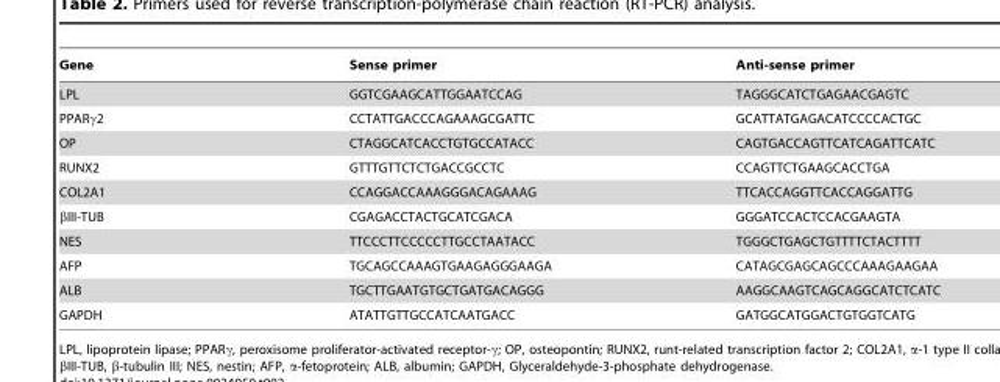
<table><thead><tr><td>Gene</td><td>Sense primer</td><td>Anti-sense primer</td></tr></thead><tbody><tr><td>LPL</td><td>GGTCGAAGCATTGGAATCCAG</td><td>TAGGGCATCTGAGAACGAGTC</td></tr><tr><td>PPARγ2</td><td>CCTATTGACCCAGAAAGCGATTC</td><td>GCATTATGAGACATCCCCACTGC</td></tr><tr><td>OP</td><td>CTAGGCATCACCTGTGCCATACC</td><td>CAGTGACCAGTTCATCAGATTCATC</td></tr><tr><td>RUNX2</td><td>GTTTGTTCTCTGACCGCCTC</td><td>CCAGTTCTGAAGCACCTGA</td></tr><tr><td>COL2A1</td><td>CCAGGACCAAAGGGACAGAAAG</td><td>TTCACCAGGTTCACCAGGATTG</td></tr><tr><td>βIII-TUB</td><td>CGAGACCTACTGCATCGACA</td><td>GGGATCCACTCCACGAAGTA</td></tr><tr><td>NES</td><td>TTCCCTTCCCCCTTGCCTAATACC</td><td>TGGGCTGAGCTGTTTTCTACTTTT</td></tr><tr><td>AFP</td><td>TGCAGCCAAAGTGAAGAGGGAAGA</td><td>CATAGCGAGCAGCCCAAAGAAGAA</td></tr><tr><td>ALB</td><td>TGCTTGAATGTGCTGATGACAGGG</td><td>AAGGCAAGTCAGCAGGCATCTCATC</td></tr><tr><td>GAPDH</td><td>ATATTGTTGCCATCAATGACC</td><td>GATGGCATGGACTGTGGTCATG</td></tr></tbody></table>